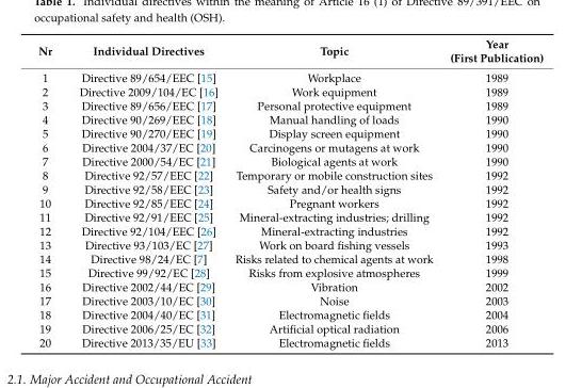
<table><thead><tr><td>Nr</td><td>Individual Directives</td><td>Topic</td><td>Year (First Publication)</td></tr></thead><tbody><tr><td>1</td><td>Directive 89/654/EEC [15]</td><td>Workplace</td><td>1989</td></tr><tr><td>2</td><td>Directive 2009/104/EC [16]</td><td>Work equipment</td><td>1989</td></tr><tr><td>3</td><td>Directive 89/656/EEC [17]</td><td>Personal protective equipment</td><td>1989</td></tr><tr><td>4</td><td>Directive 90/269/EEC [18]</td><td>Manual handling of loads</td><td>1990</td></tr><tr><td>5</td><td>Directive 90/270/EEC [19]</td><td>Display screen equipment</td><td>1990</td></tr><tr><td>6</td><td>Directive 2004/37/EC [20]</td><td>Carcinogens or mutagens at work</td><td>1990</td></tr><tr><td>7</td><td>Directive 2000/54/EC [21]</td><td>Biological agents at work</td><td>1990</td></tr><tr><td>8</td><td>Directive 92/57/EEC [22]</td><td>Temporary or mobile construction sites</td><td>1992</td></tr><tr><td>9</td><td>Directive 92/58/EEC [23]</td><td>Safety and/or health signs</td><td>1992</td></tr><tr><td>10</td><td>Directive 92/85/EEC [24]</td><td>Pregnant workers</td><td>1992</td></tr><tr><td>11</td><td>Directive 92/91/EEC [25]</td><td>Mineral-extracting industries; drilling</td><td>1992</td></tr><tr><td>12</td><td>Directive 92/104/EEC [26]</td><td>Mineral-extracting industries</td><td>1992</td></tr><tr><td>13</td><td>Directive 93/103/EC [27]</td><td>Work on board fishing vessels</td><td>1993</td></tr><tr><td>14</td><td>Directive 98/24/EC [7]</td><td>Risks related to chemical agents at work</td><td>1998</td></tr><tr><td>15</td><td>Directive 99/92/EC [28]</td><td>Risks from explosive atmospheres</td><td>1999</td></tr><tr><td>16</td><td>Directive 2002/44/EC [29]</td><td>Vibration</td><td>2002</td></tr><tr><td>17</td><td>Directive 2003/10/EC [30]</td><td>Noise</td><td>2003</td></tr><tr><td>18</td><td>Directive 2004/40/EC [31]</td><td>Electromagnetic fields</td><td>2004</td></tr><tr><td>19</td><td>Directive 2006/25/EC [32]</td><td>Artificial optical radiation</td><td>2006</td></tr><tr><td>20</td><td>Directive 2013/35/EU [33]</td><td>Electromagnetic fields</td><td>2013</td></tr></tbody></table>